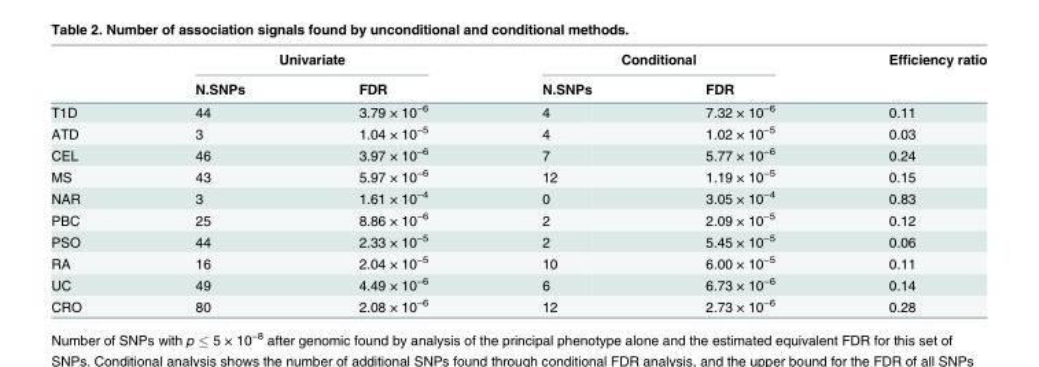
<table><thead><tr><td rowspan="2"></td><td colspan="2">Univariate</td><td colspan="2">Conditional</td><td rowspan="2">Efficiency ratio</td></tr><tr><td>N.SNPs</td><td>FDR</td><td>N.SNPs</td><td>FDR</td></tr></thead><tbody><tr><td>T1D</td><td>44</td><td>3.79 × 10<sup>−6</sup></td><td>4</td><td>7.32 × 10<sup>−6</sup></td><td>0.11</td></tr><tr><td>ATD</td><td>3</td><td>1.04 × 10<sup>−5</sup></td><td>4</td><td>1.02 × 10<sup>−5</sup></td><td>0.03</td></tr><tr><td>CEL</td><td>46</td><td>3.97 × 10<sup>−6</sup></td><td>7</td><td>5.77 × 10<sup>−6</sup></td><td>0.24</td></tr><tr><td>MS</td><td>43</td><td>5.97 × 10<sup>−6</sup></td><td>12</td><td>1.19 × 10<sup>−5</sup></td><td>0.15</td></tr><tr><td>NAR</td><td>3</td><td>1.61 × 10<sup>−4</sup></td><td>0</td><td>3.05 × 10<sup>−4</sup></td><td>0.83</td></tr><tr><td>PBC</td><td>25</td><td>8.86 × 10<sup>−6</sup></td><td>2</td><td>2.09 × 10<sup>−5</sup></td><td>0.12</td></tr><tr><td>PSO</td><td>44</td><td>2.33 × 10<sup>−5</sup></td><td>2</td><td>5.45 × 10<sup>−5</sup></td><td>0.06</td></tr><tr><td>RA</td><td>16</td><td>2.04 × 10<sup>−5</sup></td><td>10</td><td>6.00 × 10<sup>−5</sup></td><td>0.11</td></tr><tr><td>UC</td><td>49</td><td>4.49 × 10<sup>−6</sup></td><td>6</td><td>6.73 × 10<sup>−6</sup></td><td>0.14</td></tr><tr><td>CRO</td><td>80</td><td>2.08 × 10<sup>−6</sup></td><td>12</td><td>2.73 × 10<sup>−6</sup></td><td>0.28</td></tr></tbody></table>